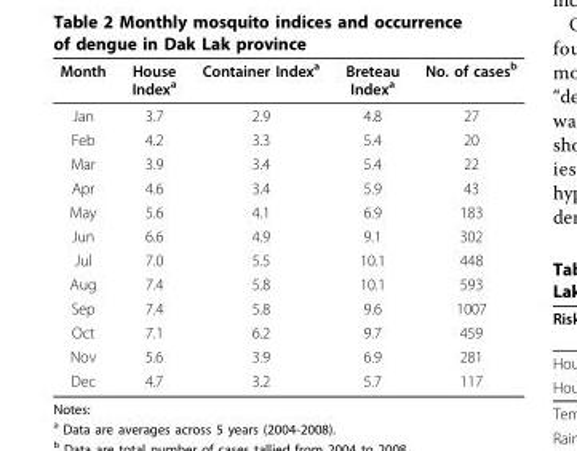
<table><thead><tr><td>Month</td><td>House Index<sup>a</sup></td><td>Container Index<sup>a</sup></td><td>Breteau Index<sup>a</sup></td><td>No. of cases<sup>b</sup></td></tr></thead><tbody><tr><td>Jan</td><td>3.7</td><td>2.9</td><td>4.8</td><td>27</td></tr><tr><td>Feb</td><td>4.2</td><td>3.3</td><td>5.4</td><td>20</td></tr><tr><td>Mar</td><td>3.9</td><td>3.4</td><td>5.4</td><td>22</td></tr><tr><td>Apr</td><td>4.6</td><td>3.4</td><td>5.9</td><td>43</td></tr><tr><td>May</td><td>5.6</td><td>4.1</td><td>6.9</td><td>183</td></tr><tr><td>Jun</td><td>6.6</td><td>4.9</td><td>9.1</td><td>302</td></tr><tr><td>Jul</td><td>7.0</td><td>5.5</td><td>10.1</td><td>448</td></tr><tr><td>Aug</td><td>7.4</td><td>5.8</td><td>10.1</td><td>593</td></tr><tr><td>Sep</td><td>7.4</td><td>5.8</td><td>9.6</td><td>1007</td></tr><tr><td>Oct</td><td>7.1</td><td>6.2</td><td>9.7</td><td>459</td></tr><tr><td>Nov</td><td>5.6</td><td>3.9</td><td>6.9</td><td>281</td></tr><tr><td>Dec</td><td>4.7</td><td>3.2</td><td>5.7</td><td>117</td></tr></tbody></table>